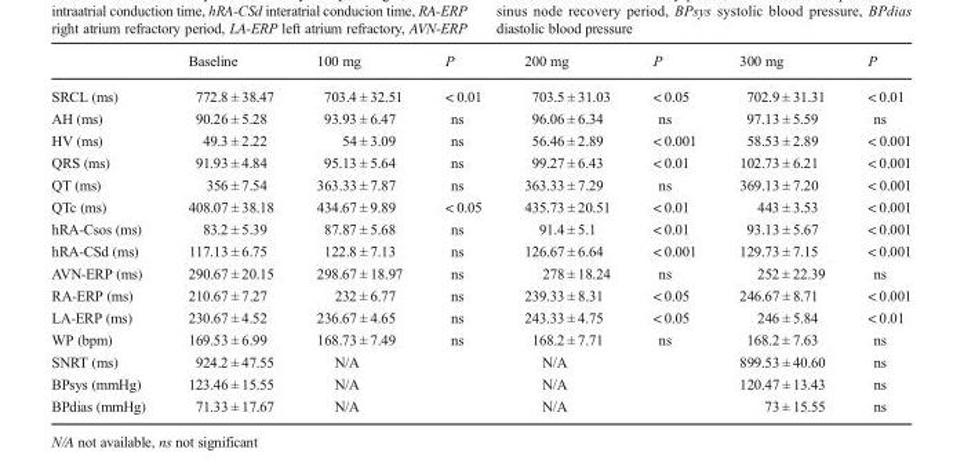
<table><thead><tr><td></td><td>Baseline</td><td>100 mg</td><td>P</td><td>200 mg</td><td>P</td><td>300 mg</td><td>P</td></tr></thead><tbody><tr><td>SRCL (ms)</td><td>772.8 ± 38.47</td><td>703.4 ± 32.51</td><td>&lt; 0.01</td><td>703.5 ± 31.03</td><td>&lt; 0.05</td><td>702.9 ± 31.31</td><td>&lt; 0.01</td></tr><tr><td>AH (ms)</td><td>90.26 ± 5.28</td><td>93.93 ± 6.47</td><td>ns</td><td>96.06 ± 6.34</td><td>ns</td><td>97.13 ± 5.59</td><td>ns</td></tr><tr><td>HV (ms)</td><td>49.3 ± 2.22</td><td>54 ± 3.09</td><td>ns</td><td>56.46 ± 2.89</td><td>&lt; 0.001</td><td>58.53 ± 2.89</td><td>&lt; 0.001</td></tr><tr><td>QRS (ms)</td><td>91.93 ± 4.84</td><td>95.13 ± 5.64</td><td>ns</td><td>99.27 ± 6.43</td><td>&lt; 0.01</td><td>102.73 ± 6.21</td><td>&lt; 0.001</td></tr><tr><td>QT (ms)</td><td>356 ± 7.54</td><td>363.33 ± 7.87</td><td>ns</td><td>363.33 ± 7.29</td><td>ns</td><td>369.13 ± 7.20</td><td>&lt; 0.001</td></tr><tr><td>QTc (ms)</td><td>408.07 ± 38.18</td><td>434.67 ± 9.89</td><td>&lt; 0.05</td><td>435.73 ± 20.51</td><td>&lt; 0.01</td><td>443 ± 3.53</td><td>&lt; 0.001</td></tr><tr><td>hRA-Csos (ms)</td><td>83.2 ± 5.39</td><td>87.87 ± 5.68</td><td>ns</td><td>91.4 ± 5.1</td><td>&lt; 0.01</td><td>93.13 ± 5.67</td><td>&lt; 0.001</td></tr><tr><td>hRA-CSd (ms)</td><td>117.13 ± 6.75</td><td>122.8 ± 7.13</td><td>ns</td><td>126.67 ± 6.64</td><td>&lt; 0.001</td><td>129.73 ± 7.15</td><td>&lt; 0.001</td></tr><tr><td>AVN-ERP (ms)</td><td>290.67 ± 20.15</td><td>298.67 ± 18.97</td><td>ns</td><td>278 ± 18.24</td><td>ns</td><td>252 ± 22.39</td><td>ns</td></tr><tr><td>RA-ERP (ms)</td><td>210.67 ± 7.27</td><td>232 ± 6.77</td><td>ns</td><td>239.33 ± 8.31</td><td>&lt; 0.05</td><td>246.67 ± 8.71</td><td>&lt; 0.001</td></tr><tr><td>LA-ERP (ms)</td><td>230.67 ± 4.52</td><td>236.67 ± 4.65</td><td>ns</td><td>243.33 ± 4.75</td><td>&lt; 0.05</td><td>246 ± 5.84</td><td>&lt; 0.01</td></tr><tr><td>WP (bpm)</td><td>169.53 ± 6.99</td><td>168.73 ± 7.49</td><td>ns</td><td>168.2 ± 7.71</td><td>ns</td><td>168.2 ± 7.63</td><td>ns</td></tr><tr><td>SNRT (ms)</td><td>924.2 ± 47.55</td><td>N/A</td><td></td><td>N/A</td><td></td><td>899.53 ± 40.60</td><td>ns</td></tr><tr><td>BPsys (mmHg)</td><td>123.46 ± 15.55</td><td>N/A</td><td></td><td>N/A</td><td></td><td>120.47 ± 13.43</td><td>ns</td></tr><tr><td>BPdias (mmHg)</td><td>71.33 ± 17.67</td><td>N/A</td><td></td><td>N/A</td><td></td><td>73 ± 15.55</td><td>ns</td></tr></tbody></table>